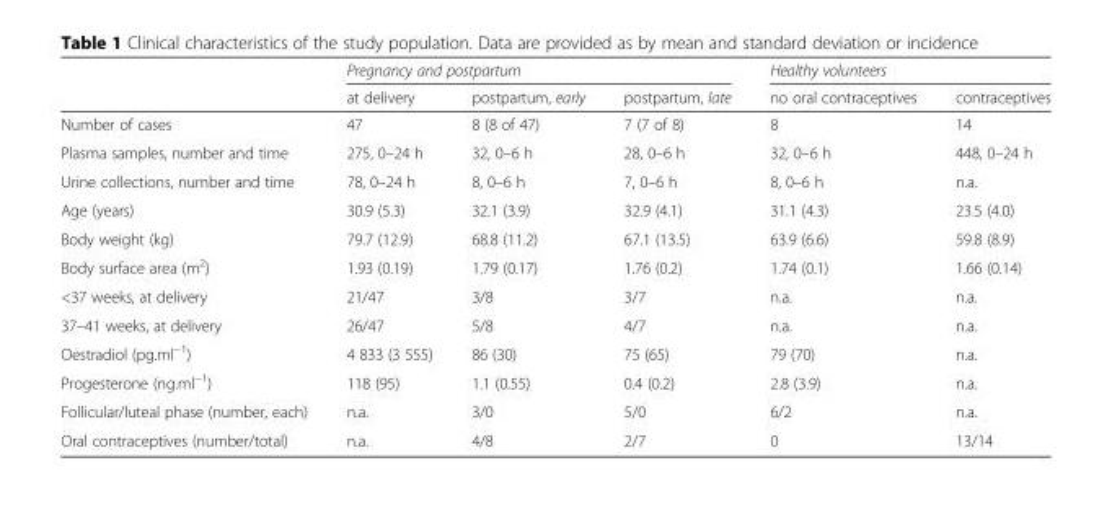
<table><thead><tr><td rowspan="2"></td><td colspan="3">Pregnancy and postpartum</td><td colspan="2">Healthy volunteers</td></tr><tr><td>at delivery</td><td>postpartum, early</td><td>postpartum, late</td><td>no oral contraceptives</td><td>contraceptives</td></tr></thead><tbody><tr><td>Number of cases</td><td>47</td><td>8 (8 of 47)</td><td>7 (7 of 8)</td><td>8</td><td>14</td></tr><tr><td>Plasma samples, number and time</td><td>275, 0–24 h</td><td>32, 0–6 h</td><td>28, 0–6 h</td><td>32, 0–6 h</td><td>448, 0–24 h</td></tr><tr><td>Urine collections, number and time</td><td>78, 0–24 h</td><td>8, 0–6 h</td><td>7, 0–6 h</td><td>8, 0–6 h</td><td>n.a.</td></tr><tr><td>Age (years)</td><td>30.9 (5.3)</td><td>32.1 (3.9)</td><td>32.9 (4.1)</td><td>31.1 (4.3)</td><td>23.5 (4.0)</td></tr><tr><td>Body weight (kg)</td><td>79.7 (12.9)</td><td>68.8 (11.2)</td><td>67.1 (13.5)</td><td>63.9 (6.6)</td><td>59.8 (8.9)</td></tr><tr><td>Body surface area (m<sup>2</sup>)</td><td>1.93 (0.19)</td><td>1.79 (0.17)</td><td>1.76 (0.2)</td><td>1.74 (0.1)</td><td>1.66 (0.14)</td></tr><tr><td>&lt;37 weeks, at delivery</td><td>21/47</td><td>3/8</td><td>3/7</td><td>n.a.</td><td>n.a.</td></tr><tr><td>37–41 weeks, at delivery</td><td>26/47</td><td>5/8</td><td>4/7</td><td>n.a.</td><td>n.a.</td></tr><tr><td>Oestradiol (pg.ml<sup>−1</sup>)</td><td>4 833 (3 555)</td><td>86 (30)</td><td>75 (65)</td><td>79 (70)</td><td>n.a.</td></tr><tr><td>Progesterone (ng.ml<sup>−1</sup>)</td><td>118 (95)</td><td>1.1 (0.55)</td><td>0.4 (0.2)</td><td>2.8 (3.9)</td><td>n.a.</td></tr><tr><td>Follicular/luteal phase (number, each)</td><td>n.a.</td><td>3/0</td><td>5/0</td><td>6/2</td><td>n.a.</td></tr><tr><td>Oral contraceptives (number/total)</td><td>n.a.</td><td>4/8</td><td>2/7</td><td>0</td><td>13/14</td></tr></tbody></table>